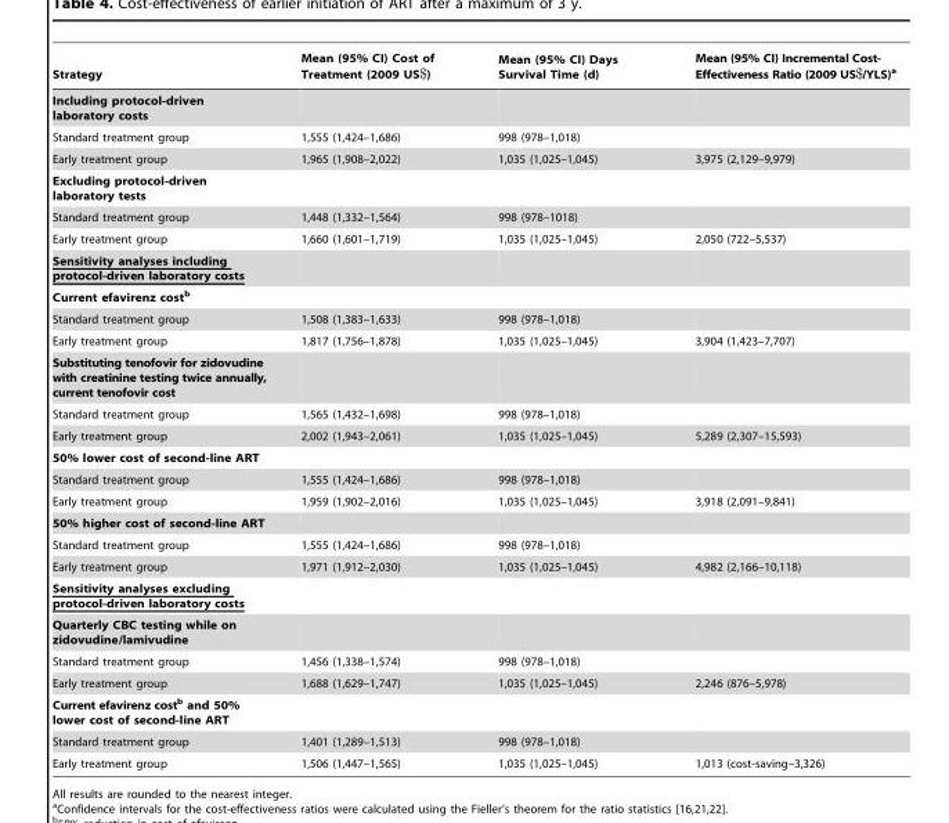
<table><thead><tr><td>Strategy</td><td>Mean (95% CI) Cost of Treatment (2009 US$)</td><td>Mean (95% CI) Days Survival Time (d)</td><td>Mean (95% CI) Incremental Cost- Effectiveness Ratio (2009 US$/YLS)<sup>a</sup></td></tr></thead><tbody><tr><td colspan="4">Including protocol-driven laboratory costs</td></tr><tr><td>Standard treatment group</td><td>1,555 (1,424–1,686)</td><td>998 (978–1,018)</td><td></td></tr><tr><td>Early treatment group</td><td>1,965 (1,908–2,022)</td><td>1,035 (1,025–1,045)</td><td>3,975 (2,129–9,979)</td></tr><tr><td colspan="4">Excluding protocol-driven laboratory tests</td></tr><tr><td>Standard treatment group</td><td>1,448 (1,332–1,564)</td><td>998 (978–1018)</td><td></td></tr><tr><td>Early treatment group</td><td>1,660 (1,601–1,719)</td><td>1,035 (1,025–1,045)</td><td>2,050 (722–5,537)</td></tr><tr><td colspan="4">Sensitivity analyses including protocol-driven laboratory costs</td></tr><tr><td colspan="4">Current efavirenz costb</td></tr><tr><td>Standard treatment group</td><td>1,508 (1,383–1,633)</td><td>998 (978–1,018)</td><td></td></tr><tr><td>Early treatment group</td><td>1,817 (1,756–1,878)</td><td>1,035 (1,025–1,045)</td><td>3,904 (1,423–7,707)</td></tr><tr><td colspan="4">Substituting tenofovir for zidovudine with creatinine testing twice annually, current tenofovir cost</td></tr><tr><td>Standard treatment group</td><td>1,565 (1,432–1,698)</td><td>998 (978–1,018)</td><td></td></tr><tr><td>Early treatment group</td><td>2,002 (1,943–2,061)</td><td>1,035 (1,025–1,045)</td><td>5,289 (2,307–15,593)</td></tr><tr><td colspan="4">50% lower cost of second-line ART</td></tr><tr><td>Standard treatment group</td><td>1,555 (1,424–1,686)</td><td>998 (978–1,018)</td><td></td></tr><tr><td>Early treatment group</td><td>1,959 (1,902–2,016)</td><td>1,035 (1,025–1,045)</td><td>3,918 (2,091–9,841)</td></tr><tr><td colspan="4">50% higher cost of second-line ART</td></tr><tr><td>Standard treatment group</td><td>1,555 (1,424–1,686)</td><td>998 (978–1,018)</td><td></td></tr><tr><td>Early treatment group</td><td>1,971 (1,912–2,030)</td><td>1,035 (1,025–1,045)</td><td>4,982 (2,166–10,118)</td></tr><tr><td colspan="4">Sensitivity analyses excluding protocol-driven laboratory costs</td></tr><tr><td colspan="4">Quarterly CBC testing while on zidovudine/lamivudine</td></tr><tr><td>Standard treatment group</td><td>1,456 (1,338–1,574)</td><td>998 (978–1,018)</td><td></td></tr><tr><td>Early treatment group</td><td>1,688 (1,629–1,747)</td><td>1,035 (1,025–1,045)</td><td>2,246 (876–5,978)</td></tr><tr><td colspan="4">Current efavirenz costb and 50% lower cost of second-line ART</td></tr><tr><td>Standard treatment group</td><td>1,401 (1,289–1,513)</td><td>998 (978–1,018)</td><td></td></tr><tr><td>Early treatment group</td><td>1,506 (1,447–1,565)</td><td>1,035 (1,025–1,045)</td><td>1,013 (cost-saving–3,326)</td></tr></tbody></table>